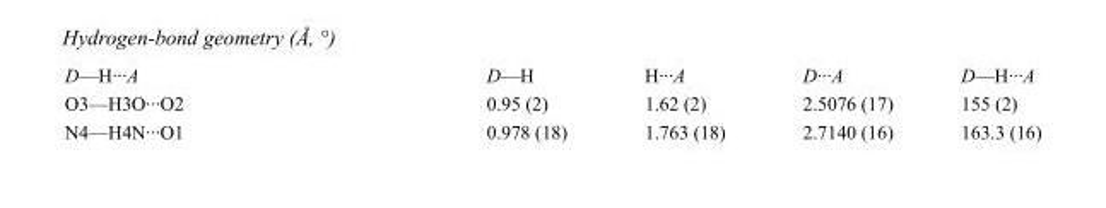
<table><tbody><tr><td>D—H···A</td><td>D—H</td><td>H···A</td><td>D···A</td><td>D—H···A</td></tr><tr><td>O3—H3O···O2</td><td>0.95 (2)</td><td>1.62 (2)</td><td>2.5076 (17)</td><td>155 (2)</td></tr><tr><td>N4—H4N···O1</td><td>0.978 (18)</td><td>1.763 (18)</td><td>2.7140 (16)</td><td>163.3 (16)</td></tr></tbody></table>